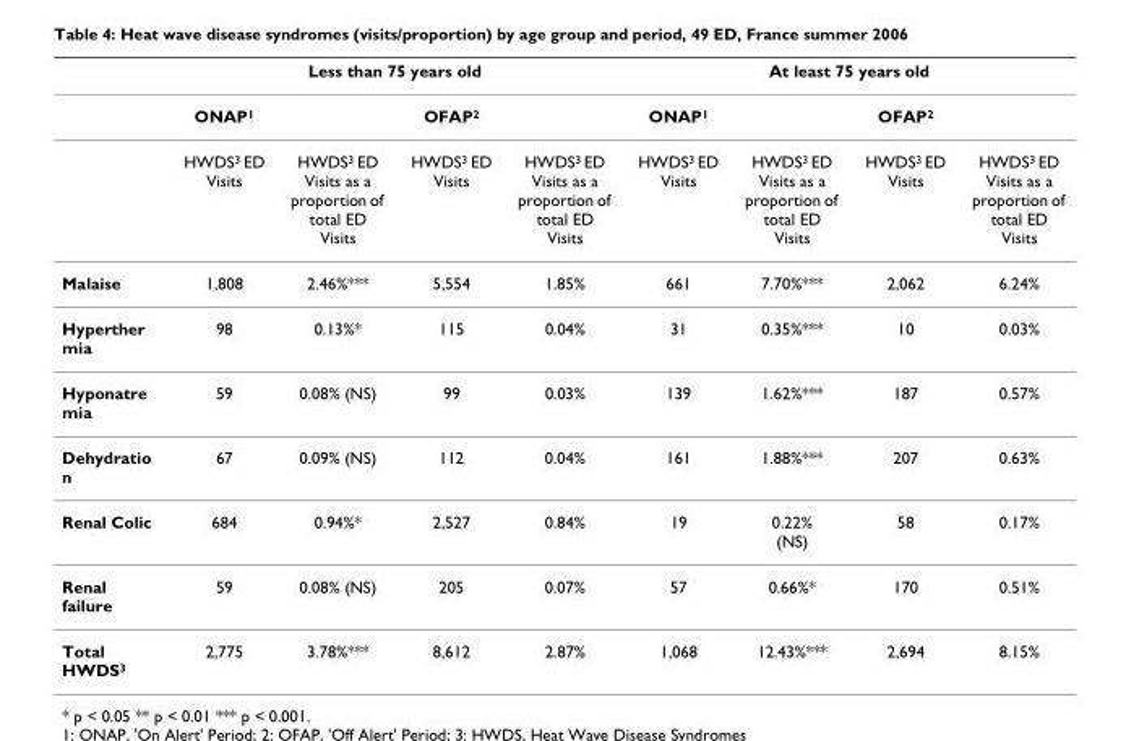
<table><thead><tr><td rowspan="2"></td><td colspan="4">Less than 75 years old</td><td colspan="4">At least 75 years old</td></tr><tr><td>ONAP<sup>1</sup></td><td></td><td>OFAP<sup>2</sup></td><td></td><td>ONAP<sup>1</sup></td><td></td><td>OFAP<sup>2</sup></td><td></td></tr></thead><tbody><tr><td></td><td>HWDS<sup>3</sup> ED Visits</td><td>HWDS<sup>3</sup> ED Visits as a proportion of total ED Visits</td><td>HWDS<sup>3</sup> ED Visits</td><td>HWDS<sup>3</sup> ED Visits as a proportion of total ED Visits</td><td>HWDS<sup>3</sup> ED Visits</td><td>HWDS<sup>3</sup> ED Visits as a proportion of total ED Visits</td><td>HWDS<sup>3</sup> ED Visits</td><td>HWDS<sup>3</sup> ED Visits as a proportion of total ED Visits</td></tr><tr><td>Malaise</td><td>1,808</td><td>2.46%***</td><td>5,554</td><td>1.85%</td><td>661</td><td>7.70%***</td><td>2,062</td><td>6.24%</td></tr><tr><td>Hyperther mia</td><td>98</td><td>0.13%*</td><td>115</td><td>0.04%</td><td>31</td><td>0.35%***</td><td>10</td><td>0.03%</td></tr><tr><td>Hyponatre mia</td><td>59</td><td>0.08% (NS)</td><td>99</td><td>0.03%</td><td>139</td><td>1.62%***</td><td>187</td><td>0.57%</td></tr><tr><td>Dehydratio n</td><td>67</td><td>0.09% (NS)</td><td>112</td><td>0.04%</td><td>161</td><td>1.88%***</td><td>207</td><td>0.63%</td></tr><tr><td>Renal Colic</td><td>684</td><td>0.94%*</td><td>2,527</td><td>0.84%</td><td>19</td><td>0.22% (NS)</td><td>58</td><td>0.17%</td></tr><tr><td>Renal failure</td><td>59</td><td>0.08% (NS)</td><td>205</td><td>0.07%</td><td>57</td><td>0.66%*</td><td>170</td><td>0.51%</td></tr><tr><td>Total HWDS<sup>3</sup></td><td>2,775</td><td>3.78%***</td><td>8,612</td><td>2.87%</td><td>1,068</td><td>12.43%***</td><td>2,694</td><td>8.15%</td></tr></tbody></table>